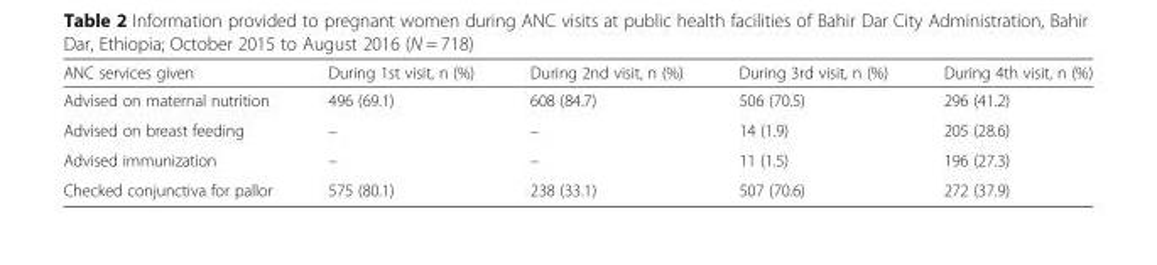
<table><thead><tr><td>ANC services given</td><td>During 1st visit, n (%)</td><td>During 2nd visit, n (%)</td><td>During 3rd visit, n (%)</td><td>During 4th visit, n (%)</td></tr></thead><tbody><tr><td>Advised on maternal nutrition</td><td>496 (69.1)</td><td>608 (84.7)</td><td>506 (70.5)</td><td>296 (41.2)</td></tr><tr><td>Advised on breast feeding</td><td>–</td><td>–</td><td>14 (1.9)</td><td>205 (28.6)</td></tr><tr><td>Advised immunization</td><td>–</td><td>–</td><td>11 (1.5)</td><td>196 (27.3)</td></tr><tr><td>Checked conjunctiva for pallor</td><td>575 (80.1)</td><td>238 (33.1)</td><td>507 (70.6)</td><td>272 (37.9)</td></tr></tbody></table>